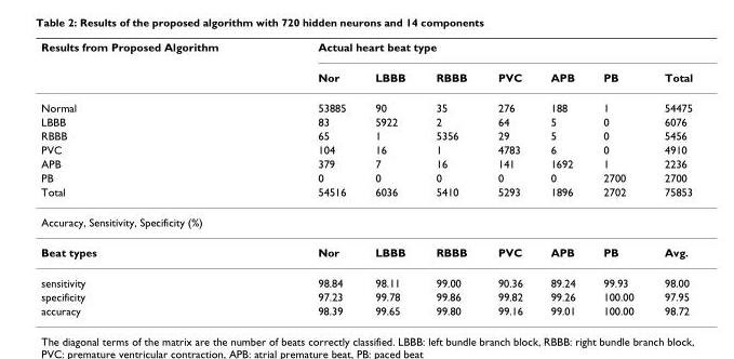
<table><thead><tr><td rowspan="2">Results from Proposed Algorithm</td><td colspan="7">Actual heart beat type</td></tr><tr><td>Nor</td><td>LBBB</td><td>RBBB</td><td>PVC</td><td>APB</td><td>PB</td><td>Total</td></tr></thead><tbody><tr><td>Normal</td><td>53885</td><td>90</td><td>35</td><td>276</td><td>188</td><td>1</td><td>54475</td></tr><tr><td>LBBB</td><td>83</td><td>5922</td><td>2</td><td>64</td><td>5</td><td>0</td><td>6076</td></tr><tr><td>RBBB</td><td>65</td><td>1</td><td>5356</td><td>29</td><td>5</td><td>0</td><td>5456</td></tr><tr><td>PVC</td><td>104</td><td>16</td><td>1</td><td>4783</td><td>6</td><td>0</td><td>4910</td></tr><tr><td>APB</td><td>379</td><td>7</td><td>16</td><td>141</td><td>1692</td><td>1</td><td>2236</td></tr><tr><td>PB</td><td>0</td><td>0</td><td>0</td><td>0</td><td>0</td><td>2700</td><td>2700</td></tr><tr><td>Total</td><td>54516</td><td>6036</td><td>5410</td><td>5293</td><td>1896</td><td>2702</td><td>75853</td></tr><tr><td colspan="8">Accuracy, Sensitivity, Specificity (%)</td></tr><tr><td>Beat types</td><td>Nor</td><td>LBBB</td><td>RBBB</td><td>PVC</td><td>APB</td><td>PB</td><td>Avg.</td></tr><tr><td>sensitivity</td><td>98.84</td><td>98.11</td><td>99.00</td><td>90.36</td><td>89.24</td><td>99.93</td><td>98.00</td></tr><tr><td>specificity</td><td>97.23</td><td>99.78</td><td>99.86</td><td>99.82</td><td>99.26</td><td>100.00</td><td>97.95</td></tr><tr><td>accuracy</td><td>98.39</td><td>99.65</td><td>99.80</td><td>99.16</td><td>99.01</td><td>100.00</td><td>98.72</td></tr></tbody></table>